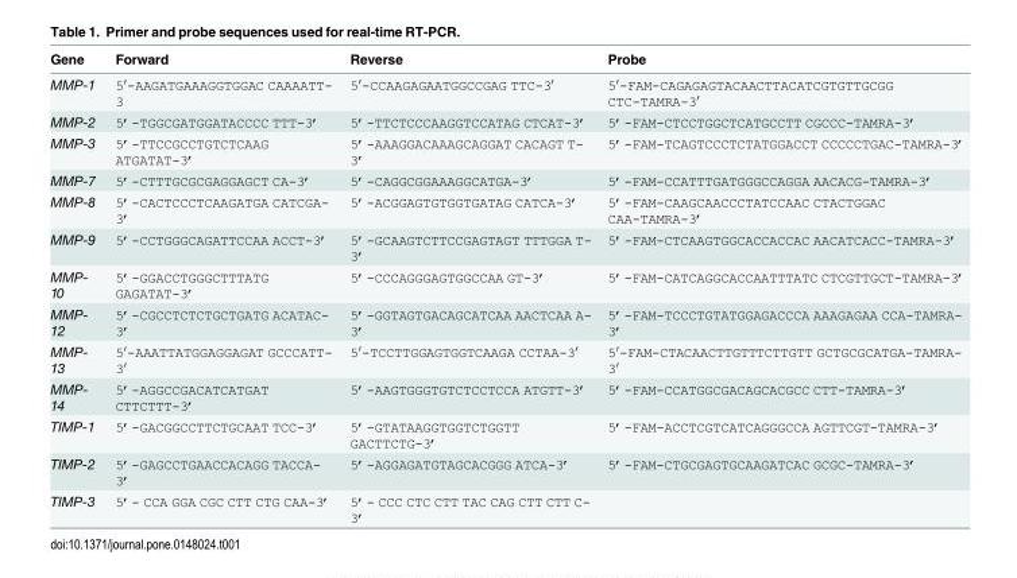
<table><thead><tr><td>Gene</td><td>Forward</td><td>Reverse</td><td>Probe</td></tr></thead><tbody><tr><td>MMP-1</td><td>5′-AAGATGAAAGGTGGAC CAAAATT- 3</td><td>5′-CCAAGAGAATGGCCGAG TTC-3′</td><td>5′-FAM-CAGAGAGTACAACTTACATCGTGTTGCGG CTC-TAMRA-3′</td></tr><tr><td>MMP-2</td><td>5’-TGGCGATGGATACCCC TTT-3’</td><td>5’-TTCTCCCAAGGTCCATAG CTCAT-3’</td><td>5’-FAM-CTCCTGGCTCATGCCTT CGCCC-TAMRA-3’</td></tr><tr><td>MMP-3</td><td>5’-TTCCGCCTGTCTCAAG ATGATAT-3’</td><td>5’-AAAGGACAAAGCAGGAT CACAGT T- 3’</td><td>5’-FAM-TCAGTCCCTCTATGGACCT CCCCCTGAC-TAMRA-3’</td></tr><tr><td>MMP-7</td><td>5’-CTTTGCGCGAGGAGCT CA-3’</td><td>5’-CAGGCGGAAAGGCATGA-3’</td><td>5’-FAM-CCATTTGATGGGCCAGGA AACACG-TAMRA-3’</td></tr><tr><td>MMP-8</td><td>5’-CACTCCCTCAAGATGA CATCGA- 3’</td><td>5’-ACGGAGTGTGGTGATAG CATCA-3’</td><td>5’-FAM-CAAGCAACCCTATCCAAC CTACTGGAC CAA-TAMRA-3’</td></tr><tr><td>MMP-9</td><td>5’-CCTGGGCAGATTCCAA ACCT-3’</td><td>5’-GCAAGTCTTCCGAGTAGT TTTGGA T- 3’</td><td>5’-FAM-CTCAAGTGGCACCACCAC AACATCACC-TAMRA-3’</td></tr><tr><td>MMP- 10</td><td>5’-GGACCTGGGCTTTATG GAGATAT-3’</td><td>5’-CCCAGGGAGTGGCCAA GT-3’</td><td>5’-FAM-CATCAGGCACCAATTTATC CTCGTTGCT-TAMRA-3’</td></tr><tr><td>MMP- 12</td><td>5’-CGCCTCTCTGCTGATG ACATAC- 3’</td><td>5’-GGTAGTGACAGCATCAA AACTCAA A- 3’</td><td>5’-FAM-TCCCTGTATGGAGACCCA AAAGAGAA CCA-TAMRA- 3’</td></tr><tr><td>MMP- 13</td><td>5′-AAATTATGGAGGAGAT GCCCATT- 3′</td><td>5′-TCCTTGGAGTGGTCAAGA CCTAA-3′</td><td>5′-FAM-CTACAACTTGTTTCTTGTT GCTGCGCATGA-TAMRA- 3′</td></tr><tr><td>MMP- 14</td><td>5’-AGGCCGACATCATGAT CTTCTTT-3’</td><td>5’-AAGTGGGTGTCTCCTCCA ATGTT-3’</td><td>5’-FAM-CCATGGCGACAGCACGCC CTT-TAMRA-3’</td></tr><tr><td>TIMP-1</td><td>5’-GACGGCCTTCTGCAAT TCC-3’</td><td>5’-GTATAAGGTGGTCTGGTT GACTTCTG-3’</td><td>5’-FAM-ACCTCGTCATCAGGGCCA AGTTCGT-TAMRA-3’</td></tr><tr><td>TIMP-2</td><td>5’-GAGCCTGAACCACAGG TACCA- 3’</td><td>5’-AGGAGATGTAGCACGGG ATCA-3’</td><td>5’-FAM-CTGCGAGTGCAAGATCAC GCGC-TAMRA-3’</td></tr><tr><td>TIMP-3</td><td>5’- CCA GGA CGC CTT CTG CAA-3’</td><td>5’- CCC CTC CTT TAC CAG CTT CTT C- 3’</td><td></td></tr></tbody></table>